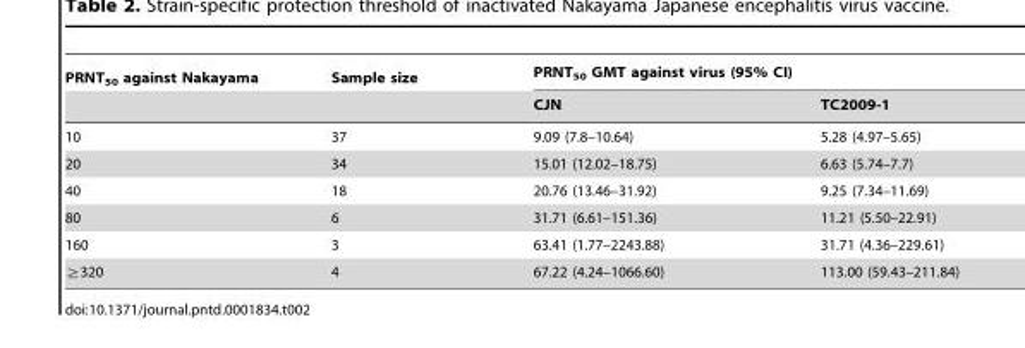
<table><thead><tr><td rowspan="2">PRNT<sub>50</sub> against Nakayama</td><td rowspan="2">Sample size</td><td colspan="2">PRNT<sub>50</sub> GMT against virus (95% CI)</td></tr><tr><td>CJN</td><td>TC2009-1</td></tr></thead><tbody><tr><td>10</td><td>37</td><td>9.09 (7.8–10.64)</td><td>5.28 (4.97–5.65)</td></tr><tr><td>20</td><td>34</td><td>15.01 (12.02–18.75)</td><td>6.63 (5.74–7.7)</td></tr><tr><td>40</td><td>18</td><td>20.76 (13.46–31.92)</td><td>9.25 (7.34–11.69)</td></tr><tr><td>80</td><td>6</td><td>31.71 (6.61–151.36)</td><td>11.21 (5.50–22.91)</td></tr><tr><td>160</td><td>3</td><td>63.41 (1.77–2243.88)</td><td>31.71 (4.36–229.61)</td></tr><tr><td>≧320</td><td>4</td><td>67.22 (4.24–1066.60)</td><td>113.00 (59.43–211.84)</td></tr></tbody></table>